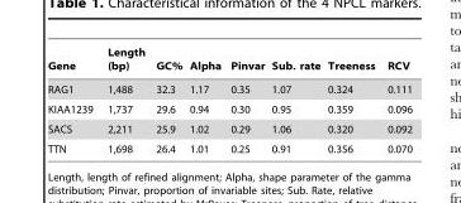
<table><thead><tr><td>Gene</td><td>Length (bp)</td><td>GC%</td><td>Alpha</td><td>Pinvar</td><td>Sub. rate</td><td>Treeness</td><td>RCV</td></tr></thead><tbody><tr><td>RAG1</td><td>1,488</td><td>32.3</td><td>1.17</td><td>0.35</td><td>1.07</td><td>0.324</td><td>0.111</td></tr><tr><td>KIAA1239</td><td>1,737</td><td>29.6</td><td>0.94</td><td>0.30</td><td>0.95</td><td>0.359</td><td>0.096</td></tr><tr><td>SACS</td><td>2,211</td><td>25.9</td><td>1.02</td><td>0.29</td><td>1.06</td><td>0.320</td><td>0.092</td></tr><tr><td>TTN</td><td>1,698</td><td>26.4</td><td>1.01</td><td>0.25</td><td>0.91</td><td>0.356</td><td>0.070</td></tr></tbody></table>